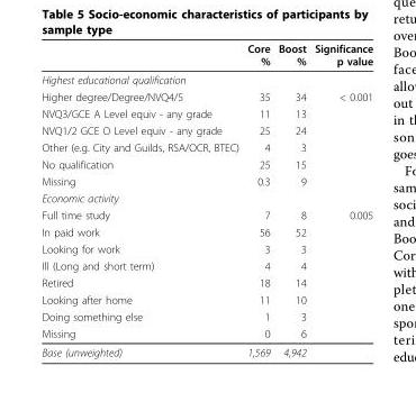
<table><thead><tr><td></td><td>Core %</td><td>Boost %</td><td>Significance p value</td></tr></thead><tbody><tr><td colspan="4">Highest educational qualification</td></tr><tr><td>Higher degree/Degree/NVQ4/5</td><td>35</td><td>34</td><td>&lt; 0.001</td></tr><tr><td>NVQ3/GCE A Level equiv - any grade</td><td>11</td><td>13</td><td></td></tr><tr><td>NVQ1/2 GCE O Level equiv - any grade</td><td>25</td><td>24</td><td></td></tr><tr><td>Other (e.g. City and Guilds, RSA/OCR, BTEC)</td><td>4</td><td>3</td><td></td></tr><tr><td>No qualification</td><td>25</td><td>15</td><td></td></tr><tr><td>Missing</td><td>0.3</td><td>9</td><td></td></tr><tr><td colspan="4">Economic activity</td></tr><tr><td>Full time study</td><td>7</td><td>8</td><td>0.005</td></tr><tr><td>In paid work</td><td>56</td><td>52</td><td></td></tr><tr><td>Looking for work</td><td>3</td><td>3</td><td></td></tr><tr><td>Ill (Long and short term)</td><td>4</td><td>4</td><td></td></tr><tr><td>Retired</td><td>18</td><td>14</td><td></td></tr><tr><td>Looking after home</td><td>11</td><td>10</td><td></td></tr><tr><td>Doing something else</td><td>1</td><td>3</td><td></td></tr><tr><td>Missing</td><td>0</td><td>6</td><td></td></tr><tr><td>Base (unweighted)</td><td>1,569</td><td>4,942</td><td></td></tr></tbody></table>